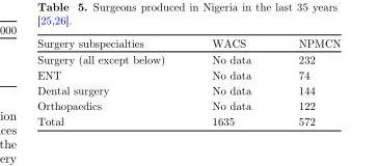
<table><thead><tr><td>Surgery subspecialties</td><td>WACS</td><td>NPMCN</td></tr></thead><tbody><tr><td>Surgery (all except below)</td><td>No data</td><td>232</td></tr><tr><td>ENT</td><td>No data</td><td>74</td></tr><tr><td>Dental surgery</td><td>No data</td><td>144</td></tr><tr><td>Orthopaedics</td><td>No data</td><td>122</td></tr><tr><td>Total</td><td>1635</td><td>572</td></tr></tbody></table>